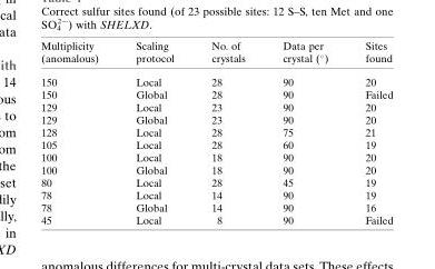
<table><thead><tr><td>Multiplicity (anomalous)</td><td>Scaling protocol</td><td>No. of crystals</td><td>Data per crystal (°)</td><td>Sites found</td></tr></thead><tbody><tr><td>150</td><td>Local</td><td>28</td><td>90</td><td>20</td></tr><tr><td>150</td><td>Global</td><td>28</td><td>90</td><td>Failed</td></tr><tr><td>129</td><td>Local</td><td>23</td><td>90</td><td>20</td></tr><tr><td>129</td><td>Global</td><td>23</td><td>90</td><td>20</td></tr><tr><td>128</td><td>Local</td><td>28</td><td>75</td><td>21</td></tr><tr><td>105</td><td>Local</td><td>28</td><td>60</td><td>19</td></tr><tr><td>100</td><td>Local</td><td>18</td><td>90</td><td>20</td></tr><tr><td>100</td><td>Global</td><td>18</td><td>90</td><td>20</td></tr><tr><td>80</td><td>Local</td><td>28</td><td>45</td><td>19</td></tr><tr><td>78</td><td>Local</td><td>14</td><td>90</td><td>19</td></tr><tr><td>78</td><td>Global</td><td>14</td><td>90</td><td>16</td></tr><tr><td>45</td><td>Local</td><td>8</td><td>90</td><td>Failed</td></tr></tbody></table>